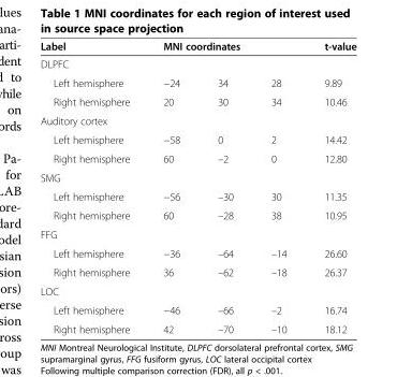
<table><thead><tr><td rowspan="2">Label DLPFC</td><td colspan="3">MNI coordinates</td><td rowspan="2">t-value</td></tr><tr><td></td><td></td><td></td></tr></thead><tbody><tr><td>Left hemisphere</td><td>−24</td><td>34</td><td>28</td><td>9.89</td></tr><tr><td>Right hemisphere</td><td>20</td><td>30</td><td>34</td><td>10.46</td></tr><tr><td colspan="5">Auditory cortex</td></tr><tr><td>Left hemisphere</td><td>−58</td><td>0</td><td>2</td><td>14.42</td></tr><tr><td>Right hemisphere</td><td>60</td><td>–2</td><td>0</td><td>12.80</td></tr><tr><td colspan="5">SMG</td></tr><tr><td>Left hemisphere</td><td>−56</td><td>–30</td><td>30</td><td>11.35</td></tr><tr><td>Right hemisphere</td><td>60</td><td>–28</td><td>38</td><td>10.95</td></tr><tr><td colspan="5">FFG</td></tr><tr><td>Left hemisphere</td><td>−36</td><td>–64</td><td>–14</td><td>26.60</td></tr><tr><td>Right hemisphere</td><td>36</td><td>–62</td><td>–18</td><td>26.37</td></tr><tr><td colspan="5">LOC</td></tr><tr><td>Left hemisphere</td><td>−46</td><td>–66</td><td>–2</td><td>16.74</td></tr><tr><td>Right hemisphere</td><td>42</td><td>–70</td><td>–10</td><td>18.12</td></tr></tbody></table>